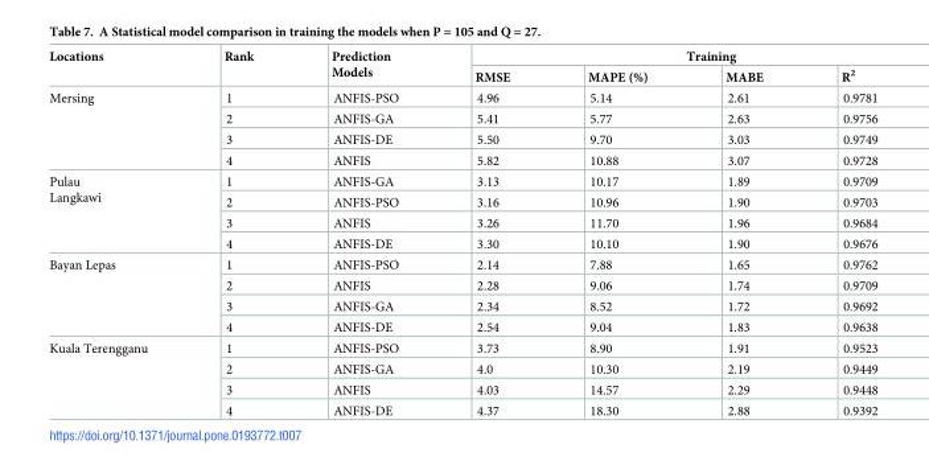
<table><thead><tr><td rowspan="2">Locations</td><td rowspan="2">Rank</td><td rowspan="2">Prediction Models</td><td colspan="4">Training</td></tr><tr><td>RMSE</td><td>MAPE (%)</td><td>MABE</td><td>R<sup>2</sup></td></tr></thead><tbody><tr><td rowspan="4">Mersing</td><td>1</td><td>ANFIS-PSO</td><td>4.96</td><td>5.14</td><td>2.61</td><td>0.9781</td></tr><tr><td>2</td><td>ANFIS-GA</td><td>5.41</td><td>5.77</td><td>2.63</td><td>0.9756</td></tr><tr><td>3</td><td>ANFIS-DE</td><td>5.50</td><td>9.70</td><td>3.03</td><td>0.9749</td></tr><tr><td>4</td><td>ANFIS</td><td>5.82</td><td>10.88</td><td>3.07</td><td>0.9728</td></tr><tr><td rowspan="4">Pulau Langkawi</td><td>1</td><td>ANFIS-GA</td><td>3.13</td><td>10.17</td><td>1.89</td><td>0.9709</td></tr><tr><td>2</td><td>ANFIS-PSO</td><td>3.16</td><td>10.96</td><td>1.90</td><td>0.9703</td></tr><tr><td>3</td><td>ANFIS</td><td>3.26</td><td>11.70</td><td>1.96</td><td>0.9684</td></tr><tr><td>4</td><td>ANFIS-DE</td><td>3.30</td><td>10.10</td><td>1.90</td><td>0.9676</td></tr><tr><td rowspan="4">Bayan Lepas</td><td>1</td><td>ANFIS-PSO</td><td>2.14</td><td>7.88</td><td>1.65</td><td>0.9762</td></tr><tr><td>2</td><td>ANFIS</td><td>2.28</td><td>9.06</td><td>1.74</td><td>0.9709</td></tr><tr><td>3</td><td>ANFIS-GA</td><td>2.34</td><td>8.52</td><td>1.72</td><td>0.9692</td></tr><tr><td>4</td><td>ANFIS-DE</td><td>2.54</td><td>9.04</td><td>1.83</td><td>0.9638</td></tr><tr><td rowspan="4">Kuala Terengganu</td><td>1</td><td>ANFIS-PSO</td><td>3.73</td><td>8.90</td><td>1.91</td><td>0.9523</td></tr><tr><td>2</td><td>ANFIS-GA</td><td>4.0</td><td>10.30</td><td>2.19</td><td>0.9449</td></tr><tr><td>3</td><td>ANFIS</td><td>4.03</td><td>14.57</td><td>2.29</td><td>0.9448</td></tr><tr><td>4</td><td>ANFIS-DE</td><td>4.37</td><td>18.30</td><td>2.88</td><td>0.9392</td></tr></tbody></table>